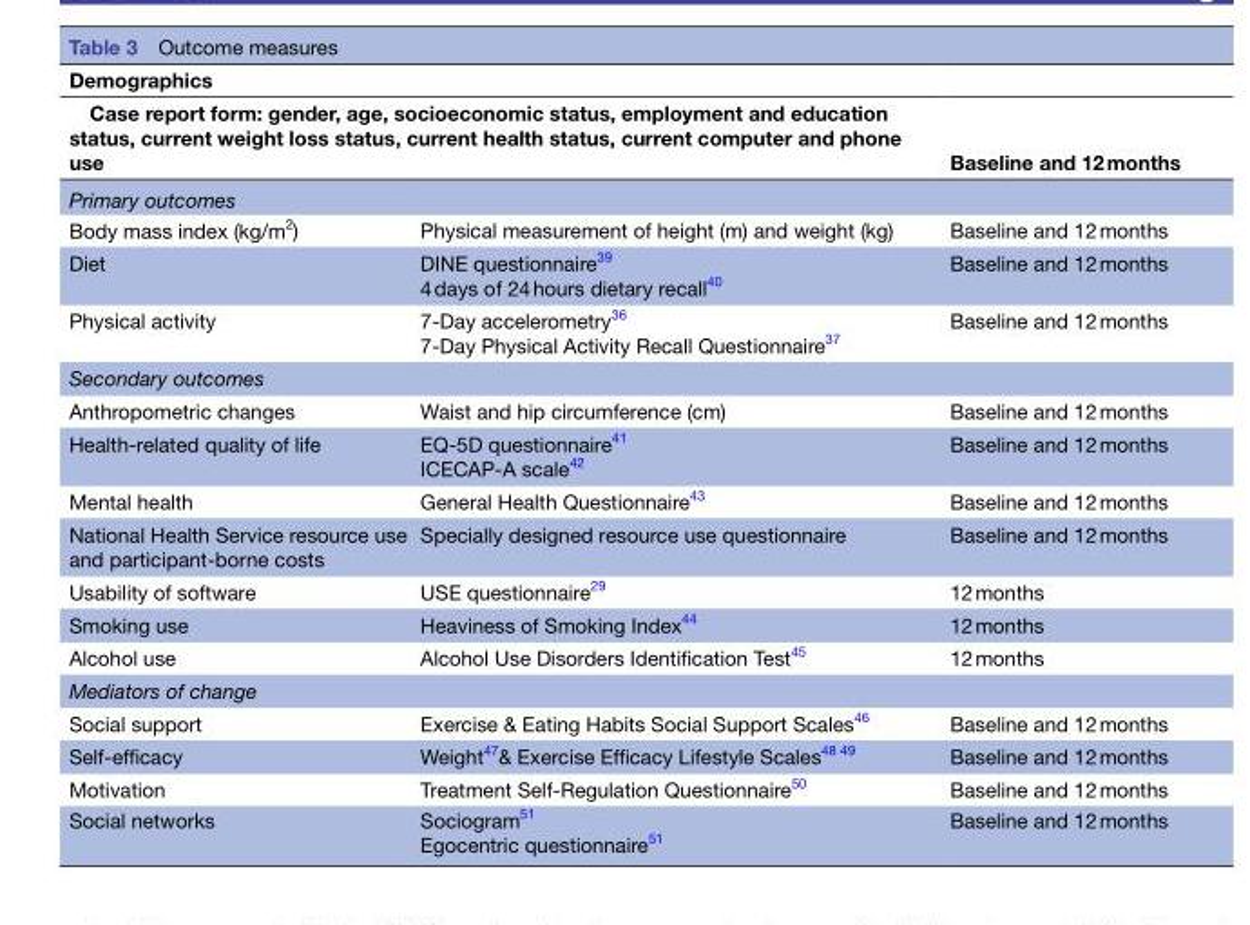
<table><thead><tr><td colspan="3">Demographics</td></tr><tr><td colspan="2">Case report form: gender, age, socioeconomic status, employment and education status, current weight loss status, current health status, current computer and phone use</td><td>Baseline and 12 months</td></tr><tr><td colspan="3">Primary outcomes</td></tr><tr><td>Body mass index (kg/m<sup>2</sup>)</td><td>Physical measurement of height (m) and weight (kg)</td><td>Baseline and 12 months</td></tr></thead><tbody><tr><td>Diet</td><td>DINE questionnaire<sup>39</sup> 4 days of 24 hours dietary recall<sup>40</sup></td><td>Baseline and 12 months</td></tr><tr><td>Physical activity</td><td>7-Day accelerometry<sup>36</sup> 7-Day Physical Activity Recall Questionnaire<sup>37</sup></td><td>Baseline and 12 months</td></tr><tr><td colspan="3">Secondary outcomes</td></tr><tr><td>Anthropometric changes</td><td>Waist and hip circumference (cm)</td><td>Baseline and 12 months</td></tr><tr><td>Health-related quality of life</td><td>EQ-5D questionnaire<sup>41</sup> ICECAP-A scale<sup>42</sup></td><td>Baseline and 12 months</td></tr><tr><td>Mental health</td><td>General Health Questionnaire<sup>43</sup></td><td>Baseline and 12 months</td></tr><tr><td>National Health Service resource use and participant-borne costs</td><td>Specially designed resource use questionnaire</td><td>Baseline and 12 months</td></tr><tr><td>Usability of software</td><td>USE questionnaire<sup>29</sup></td><td>12 months</td></tr><tr><td>Smoking use</td><td>Heaviness of Smoking Index<sup>44</sup></td><td>12 months</td></tr><tr><td>Alcohol use</td><td>Alcohol Use Disorders Identification Test<sup>45</sup></td><td>12 months</td></tr><tr><td colspan="3">Mediators of change</td></tr><tr><td>Social support</td><td>Exercise &amp; Eating Habits Social Support Scales<sup>46</sup></td><td>Baseline and 12 months</td></tr><tr><td>Self-efficacy</td><td>Weight<sup>47</sup>&amp; Exercise Efficacy Lifestyle Scales<sup>48 49</sup></td><td>Baseline and 12 months</td></tr><tr><td>Motivation</td><td>Treatment Self-Regulation Questionnaire<sup>50</sup></td><td>Baseline and 12 months</td></tr><tr><td>Social networks</td><td>Sociogram<sup>51</sup> Egocentric questionnaire<sup>51</sup></td><td>Baseline and 12 months</td></tr></tbody></table>